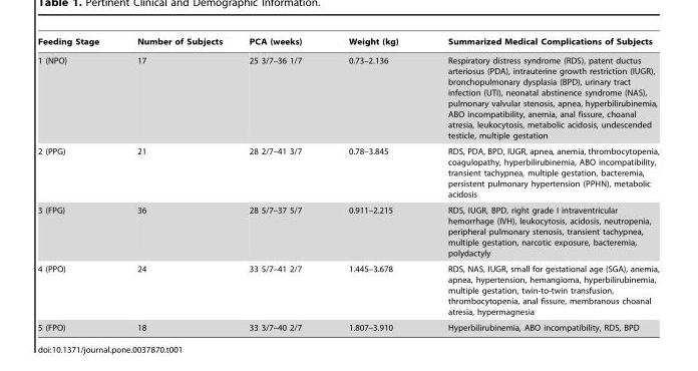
<table><thead><tr><td>Feeding Stage</td><td>Number of Subjects</td><td>PCA (weeks)</td><td>Weight (kg)</td><td>Summarized Medical Complications of Subjects</td></tr></thead><tbody><tr><td>1 (NPO)</td><td>17</td><td>25 3/7–36 1/7</td><td>0.73–2.136</td><td>Respiratory distress syndrome (RDS), patent ductus arteriosus (PDA), intrauterine growth restriction (IUGR), bronchopulmonary dysplasia (BPD), urinary tract infection (UTI), neonatal abstinence syndrome (NAS), pulmonary valvular stenosis, apnea, hyperbilirubinemia, ABO incompatibility, anemia, anal fissure, choanal atresia, leukocytosis, metabolic acidosis, undescended testicle, multiple gestation</td></tr><tr><td>2 (PPG)</td><td>21</td><td>28 2/7–41 3/7</td><td>0.78–3.845</td><td>RDS, PDA, BPD, IUGR, apnea, anemia, thrombocytopenia, coagulopathy, hyperbilirubinemia, ABO incompatibility, transient tachypnea, multiple gestation, bacteremia, persistent pulmonary hypertension (PPHN), metabolic acidosis</td></tr><tr><td>3 (FPG)</td><td>36</td><td>28 5/7–37 5/7</td><td>0.911–2.215</td><td>RDS, IUGR, BPD, right grade I intraventricular hemorrhage (IVH), leukocytosis, acidosis, neutropenia, peripheral pulmonary stenosis, transient tachypnea, multiple gestation, narcotic exposure, bacteremia, polydactyly</td></tr><tr><td>4 (PPO)</td><td>24</td><td>33 5/7–41 2/7</td><td>1.445–3.678</td><td>RDS, NAS, IUGR, small for gestational age (SGA), anemia, apnea, hypertension, hemangioma, hyperbilirubinemia, multiple gestation, twin-to-twin transfusion, thrombocytopenia, anal fissure, membranous choanal atresia, hypermagnesia</td></tr><tr><td>5 (FPO)</td><td>18</td><td>33 3/7–40 2/7</td><td>1.807–3.910</td><td>Hyperbilirubinemia, ABO incompatibility, RDS, BPD</td></tr></tbody></table>